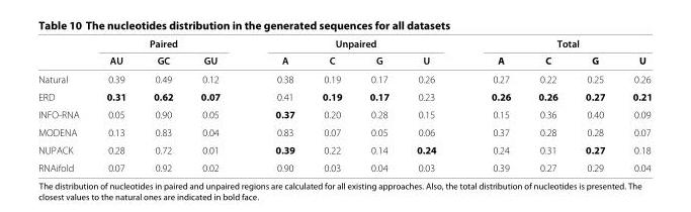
<table><thead><tr><td rowspan="2"></td><td colspan="3">Paired</td><td colspan="4">Unpaired</td><td colspan="4">Total</td></tr><tr><td>AU</td><td>GC</td><td>GU</td><td>A</td><td>C</td><td>G</td><td>U</td><td>A</td><td>C</td><td>G</td><td>U</td></tr></thead><tbody><tr><td>Natural</td><td>0.39</td><td>0.49</td><td>0.12</td><td>0.38</td><td>0.19</td><td>0.17</td><td>0.26</td><td>0.27</td><td>0.22</td><td>0.25</td><td>0.26</td></tr><tr><td>ERD</td><td>0.31</td><td>0.62</td><td>0.07</td><td>0.41</td><td>0.19</td><td>0.17</td><td>0.23</td><td>0.26</td><td>0.26</td><td>0.27</td><td>0.21</td></tr><tr><td>INFO-RNA</td><td>0.05</td><td>0.90</td><td>0.05</td><td>0.37</td><td>0.20</td><td>0.28</td><td>0.15</td><td>0.15</td><td>0.36</td><td>0.40</td><td>0.09</td></tr><tr><td>MODENA</td><td>0.13</td><td>0.83</td><td>0.04</td><td>0.83</td><td>0.07</td><td>0.05</td><td>0.06</td><td>0.37</td><td>0.28</td><td>0.28</td><td>0.07</td></tr><tr><td>NUPACK</td><td>0.28</td><td>0.72</td><td>0.01</td><td>0.39</td><td>0.22</td><td>0.14</td><td>0.24</td><td>0.24</td><td>0.31</td><td>0.27</td><td>0.18</td></tr><tr><td>RNAifold</td><td>0.07</td><td>0.92</td><td>0.02</td><td>0.90</td><td>0.03</td><td>0.04</td><td>0.03</td><td>0.39</td><td>0.27</td><td>0.29</td><td>0.04</td></tr></tbody></table>